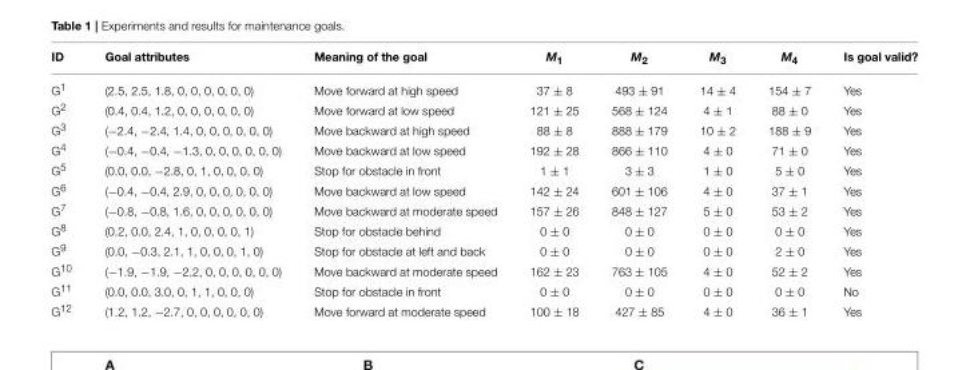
<table><thead><tr><td>ID</td><td>Goal attributes</td><td>Meaning of the goal</td><td>M<sub>1</sub></td><td>M<sub>2</sub></td><td>M<sub>3</sub></td><td>M<sub>4</sub></td><td>Is goal valid?</td></tr></thead><tbody><tr><td>G<sup>1</sup></td><td>(2.5, 2.5, 1.8, 0, 0, 0, 0, 0, 0)</td><td>Move forward at high speed</td><td>37 ± 8</td><td>493 ± 91</td><td>14 ± 4</td><td>154 ± 7</td><td>Yes</td></tr><tr><td>G<sup>2</sup></td><td>(0.4, 0.4, 1.2, 0, 0, 0, 0, 0, 0)</td><td>Move forward at low speed</td><td>121 ± 25</td><td>568 ± 124</td><td>4 ± 1</td><td>88 ± 0</td><td>Yes</td></tr><tr><td>G<sup>3</sup></td><td>(−2.4, −2.4, 1.4, 0, 0, 0, 0, 0, 0)</td><td>Move backward at high speed</td><td>88 ± 8</td><td>888 ± 179</td><td>10 ± 2</td><td>188 ± 9</td><td>Yes</td></tr><tr><td>G<sup>4</sup></td><td>(−0.4, −0.4, −1.3, 0, 0, 0, 0, 0, 0)</td><td>Move backward at low speed</td><td>192 ± 28</td><td>866 ± 110</td><td>4 ± 0</td><td>71 ± 0</td><td>Yes</td></tr><tr><td>G<sup>5</sup></td><td>(0.0, 0.0, −2.8, 0, 1, 0, 0, 0, 0)</td><td>Stop for obstacle in front</td><td>1 ± 1</td><td>3 ± 3</td><td>1 ± 0</td><td>5 ± 0</td><td>Yes</td></tr><tr><td>G<sup>6</sup></td><td>(−0.4, −0.4, 2.9, 0, 0, 0, 0, 0, 0)</td><td>Move backward at low speed</td><td>142 ± 24</td><td>601 ± 106</td><td>4 ± 0</td><td>37 ± 1</td><td>Yes</td></tr><tr><td>G<sup>7</sup></td><td>(−0.8, −0.8, 1.6, 0, 0, 0, 0, 0, 0)</td><td>Move backward at moderate speed</td><td>157 ± 26</td><td>848 ± 127</td><td>5 ± 0</td><td>53 ± 2</td><td>Yes</td></tr><tr><td>G<sup>8</sup></td><td>(0.2, 0.0, 2.4, 1, 0, 0, 0, 0, 1)</td><td>Stop for obstacle behind</td><td>0 ± 0</td><td>0 ± 0</td><td>0 ± 0</td><td>0 ± 0</td><td>Yes</td></tr><tr><td>G<sup>9</sup></td><td>(0.0, −0.3, 2.1, 1, 0, 0, 0, 1, 0)</td><td>Stop for obstacle at left and back</td><td>0 ± 0</td><td>0 ± 0</td><td>0 ± 0</td><td>2 ± 0</td><td>Yes</td></tr><tr><td>G<sup>10</sup></td><td>(−1.9, −1.9, −2.2, 0, 0, 0, 0, 0, 0)</td><td>Move backward at moderate speed</td><td>162 ± 23</td><td>763 ± 105</td><td>4 ± 0</td><td>52 ± 2</td><td>Yes</td></tr><tr><td>G<sup>11</sup></td><td>(0.0, 0.0, 3.0, 0, 1, 1, 0, 0, 0)</td><td>Stop for obstacle in front</td><td>0 ± 0</td><td>0 ± 0</td><td>0 ± 0</td><td>0 ± 0</td><td>No</td></tr><tr><td>G<sup>12</sup></td><td>(1.2, 1.2, −2.7, 0, 0, 0, 0, 0, 0)</td><td>Move forward at moderate speed</td><td>100 ± 18</td><td>427 ± 85</td><td>4 ± 0</td><td>36 ± 1</td><td>Yes</td></tr></tbody></table>